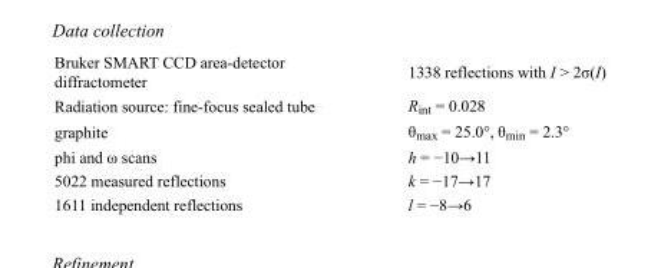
<table><tbody><tr><td>Bruker SMART CCD area-detector diffractometer</td><td>1338 reflections with I &gt; 2σ(I)</td></tr><tr><td>Radiation source: fine-focus sealed tube</td><td>R<sub>int</sub> = 0.028</td></tr><tr><td>graphite</td><td>θ<sub>max</sub> = 25.0°, θ<sub>min</sub> = 2.3°</td></tr><tr><td>phi and ω scans</td><td>h = −10→11</td></tr><tr><td>5022 measured reflections</td><td>k = −17→17</td></tr><tr><td>1611 independent reflections</td><td>l = −8→6</td></tr></tbody></table>